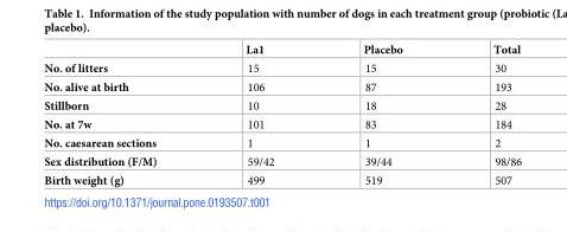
<table><thead><tr><td></td><td>La1</td><td>Placebo</td><td>Total</td></tr></thead><tbody><tr><td>No. of litters</td><td>15</td><td>15</td><td>30</td></tr><tr><td>No. alive at birth</td><td>106</td><td>87</td><td>193</td></tr><tr><td>Stillborn</td><td>10</td><td>18</td><td>28</td></tr><tr><td>No. at 7w</td><td>101</td><td>83</td><td>184</td></tr><tr><td>No. caesarean sections</td><td>1</td><td>1</td><td>2</td></tr><tr><td>Sex distribution (F/M)</td><td>59/42</td><td>39/44</td><td>98/86</td></tr><tr><td>Birth weight (g)</td><td>499</td><td>519</td><td>507</td></tr></tbody></table>